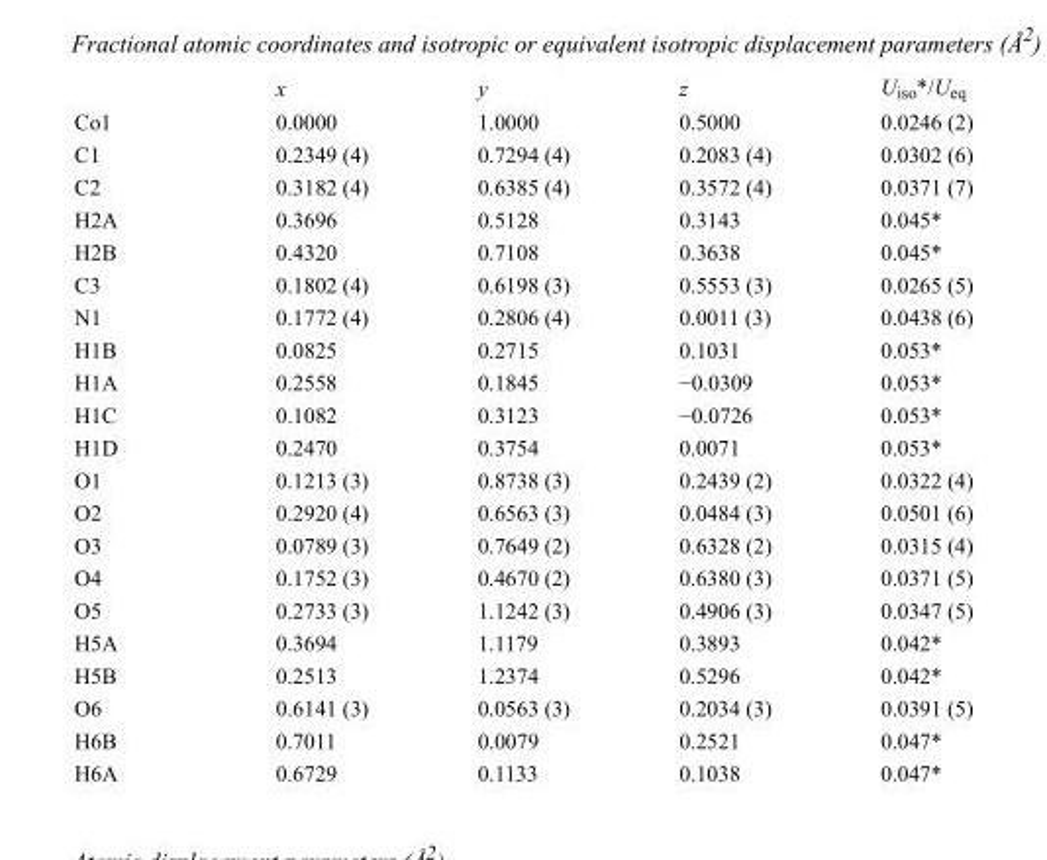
<table><thead><tr><td></td><td>x</td><td>y</td><td>z</td><td>U<sub>iso</sub>*/U<sub>eq</sub></td></tr></thead><tbody><tr><td>Co1</td><td>0.0000</td><td>1.0000</td><td>0.5000</td><td>0.0246 (2)</td></tr><tr><td>C1</td><td>0.2349 (4)</td><td>0.7294 (4)</td><td>0.2083 (4)</td><td>0.0302 (6)</td></tr><tr><td>C2</td><td>0.3182 (4)</td><td>0.6385 (4)</td><td>0.3572 (4)</td><td>0.0371 (7)</td></tr><tr><td>H2A</td><td>0.3696</td><td>0.5128</td><td>0.3143</td><td>0.045*</td></tr><tr><td>H2B</td><td>0.4320</td><td>0.7108</td><td>0.3638</td><td>0.045*</td></tr><tr><td>C3</td><td>0.1802 (4)</td><td>0.6198 (3)</td><td>0.5553 (3)</td><td>0.0265 (5)</td></tr><tr><td>N1</td><td>0.1772 (4)</td><td>0.2806 (4)</td><td>0.0011 (3)</td><td>0.0438 (6)</td></tr><tr><td>H1B</td><td>0.0825</td><td>0.2715</td><td>0.1031</td><td>0.053*</td></tr><tr><td>H1A</td><td>0.2558</td><td>0.1845</td><td>−0.0309</td><td>0.053*</td></tr><tr><td>H1C</td><td>0.1082</td><td>0.3123</td><td>−0.0726</td><td>0.053*</td></tr><tr><td>H1D</td><td>0.2470</td><td>0.3754</td><td>0.0071</td><td>0.053*</td></tr><tr><td>O1</td><td>0.1213 (3)</td><td>0.8738 (3)</td><td>0.2439 (2)</td><td>0.0322 (4)</td></tr><tr><td>O2</td><td>0.2920 (4)</td><td>0.6563 (3)</td><td>0.0484 (3)</td><td>0.0501 (6)</td></tr><tr><td>O3</td><td>0.0789 (3)</td><td>0.7649 (2)</td><td>0.6328 (2)</td><td>0.0315 (4)</td></tr><tr><td>O4</td><td>0.1752 (3)</td><td>0.4670 (2)</td><td>0.6380 (3)</td><td>0.0371 (5)</td></tr><tr><td>O5</td><td>0.2733 (3)</td><td>1.1242 (3)</td><td>0.4906 (3)</td><td>0.0347 (5)</td></tr><tr><td>H5A</td><td>0.3694</td><td>1.1179</td><td>0.3893</td><td>0.042*</td></tr><tr><td>H5B</td><td>0.2513</td><td>1.2374</td><td>0.5296</td><td>0.042*</td></tr><tr><td>O6</td><td>0.6141 (3)</td><td>0.0563 (3)</td><td>0.2034 (3)</td><td>0.0391 (5)</td></tr><tr><td>H6B</td><td>0.7011</td><td>0.0079</td><td>0.2521</td><td>0.047*</td></tr><tr><td>H6A</td><td>0.6729</td><td>0.1133</td><td>0.1038</td><td>0.047*</td></tr></tbody></table>